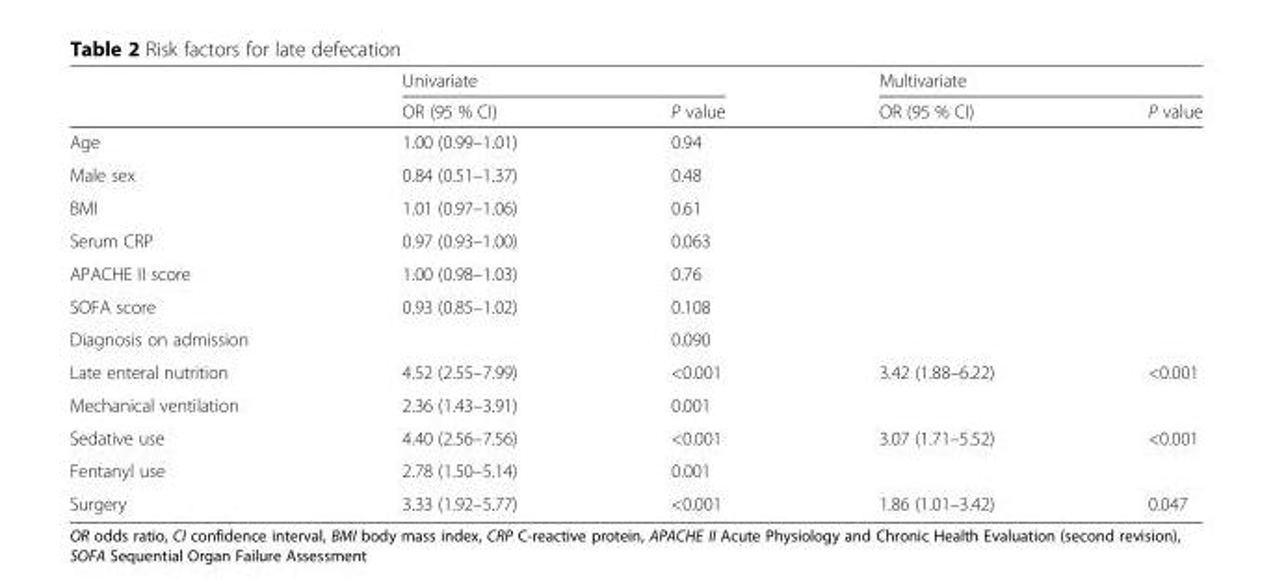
<table><thead><tr><td rowspan="2"></td><td colspan="2">Univariate</td><td colspan="2">Multivariate</td></tr><tr><td>OR (95 % CI)</td><td>P value</td><td>OR (95 % CI)</td><td>P value</td></tr></thead><tbody><tr><td>Age</td><td>1.00 (0.99–1.01)</td><td>0.94</td><td></td><td></td></tr><tr><td>Male sex</td><td>0.84 (0.51–1.37)</td><td>0.48</td><td></td><td></td></tr><tr><td>BMI</td><td>1.01 (0.97–1.06)</td><td>0.61</td><td></td><td></td></tr><tr><td>Serum CRP</td><td>0.97 (0.93–1.00)</td><td>0.063</td><td></td><td></td></tr><tr><td>APACHE II score</td><td>1.00 (0.98–1.03)</td><td>0.76</td><td></td><td></td></tr><tr><td>SOFA score</td><td>0.93 (0.85–1.02)</td><td>0.108</td><td></td><td></td></tr><tr><td>Diagnosis on admission</td><td></td><td>0.090</td><td></td><td></td></tr><tr><td>Late enteral nutrition</td><td>4.52 (2.55–7.99)</td><td>&lt;0.001</td><td>3.42 (1.88–6.22)</td><td>&lt;0.001</td></tr><tr><td>Mechanical ventilation</td><td>2.36 (1.43–3.91)</td><td>0.001</td><td></td><td></td></tr><tr><td>Sedative use</td><td>4.40 (2.56–7.56)</td><td>&lt;0.001</td><td>3.07 (1.71–5.52)</td><td>&lt;0.001</td></tr><tr><td>Fentanyl use</td><td>2.78 (1.50–5.14)</td><td>0.001</td><td></td><td></td></tr><tr><td>Surgery</td><td>3.33 (1.92–5.77)</td><td>&lt;0.001</td><td>1.86 (1.01–3.42)</td><td>0.047</td></tr></tbody></table>